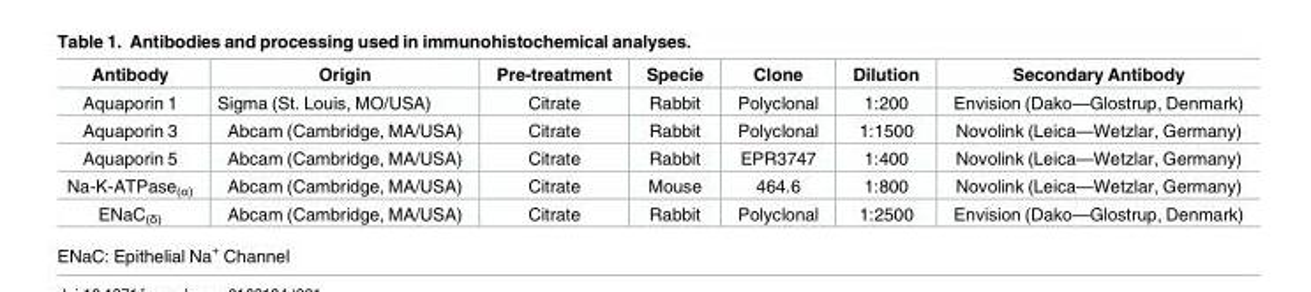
<table><thead><tr><td>Antibody</td><td>Origin</td><td>Pre-treatment</td><td>Specie</td><td>Clone</td><td>Dilution</td><td>Secondary Antibody</td></tr></thead><tbody><tr><td>Aquaporin 1</td><td>Sigma (St. Louis, MO/USA)</td><td>Citrate</td><td>Rabbit</td><td>Polyclonal</td><td>1:200</td><td>Envision (Dako—Glostrup, Denmark)</td></tr><tr><td>Aquaporin 3</td><td>Abcam (Cambridge, MA/USA)</td><td>Citrate</td><td>Rabbit</td><td>Polyclonal</td><td>1:1500</td><td>Novolink (Leica—Wetzlar, Germany)</td></tr><tr><td>Aquaporin 5</td><td>Abcam (Cambridge, MA/USA)</td><td>Citrate</td><td>Rabbit</td><td>EPR3747</td><td>1:400</td><td>Novolink (Leica—Wetzlar, Germany)</td></tr><tr><td>Na-K-ATPase<sub>(α)</sub></td><td>Abcam (Cambridge, MA/USA)</td><td>Citrate</td><td>Mouse</td><td>464.6</td><td>1:800</td><td>Novolink (Leica—Wetzlar, Germany)</td></tr><tr><td>ENaC<sub>(δ)</sub></td><td>Abcam (Cambridge, MA/USA)</td><td>Citrate</td><td>Rabbit</td><td>Polyclonal</td><td>1:2500</td><td>Envision (Dako—Glostrup, Denmark)</td></tr></tbody></table>